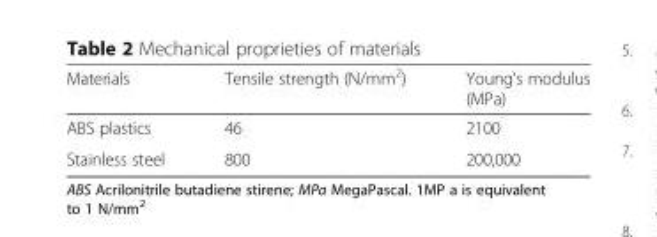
<table><thead><tr><td>Materials</td><td>Tensile strength (N/mm<sup>2</sup>)</td><td>Young’s modulus (MPa)</td></tr></thead><tbody><tr><td>ABS plastics</td><td>46</td><td>2100</td></tr><tr><td>Stainless steel</td><td>800</td><td>200,000</td></tr></tbody></table>